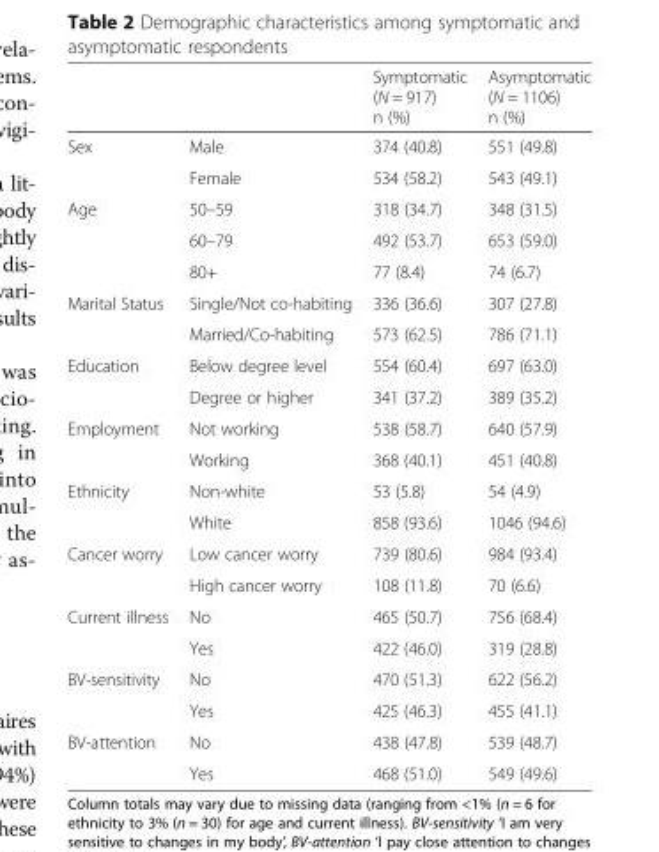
<table><thead><tr><td></td><td></td><td>Symptomatic (N = 917) n (%)</td><td>Asymptomatic (N = 1106) n (%)</td></tr></thead><tbody><tr><td rowspan="2">Sex</td><td>Male</td><td>374 (40.8)</td><td>551 (49.8)</td></tr><tr><td>Female</td><td>534 (58.2)</td><td>543 (49.1)</td></tr><tr><td rowspan="3">Age</td><td>50–59</td><td>318 (34.7)</td><td>348 (31.5)</td></tr><tr><td>60–79</td><td>492 (53.7)</td><td>653 (59.0)</td></tr><tr><td>80+</td><td>77 (8.4)</td><td>74 (6.7)</td></tr><tr><td rowspan="2">Marital Status</td><td>Single/Not co-habiting</td><td>336 (36.6)</td><td>307 (27.8)</td></tr><tr><td>Married/Co-habiting</td><td>573 (62.5)</td><td>786 (71.1)</td></tr><tr><td rowspan="2">Education</td><td>Below degree level</td><td>554 (60.4)</td><td>697 (63.0)</td></tr><tr><td>Degree or higher</td><td>341 (37.2)</td><td>389 (35.2)</td></tr><tr><td rowspan="2">Employment</td><td>Not working</td><td>538 (58.7)</td><td>640 (57.9)</td></tr><tr><td>Working</td><td>368 (40.1)</td><td>451 (40.8)</td></tr><tr><td rowspan="2">Ethnicity</td><td>Non-white</td><td>53 (5.8)</td><td>54 (4.9)</td></tr><tr><td>White</td><td>858 (93.6)</td><td>1046 (94.6)</td></tr><tr><td rowspan="2">Cancer worry</td><td>Low cancer worry</td><td>739 (80.6)</td><td>984 (93.4)</td></tr><tr><td>High cancer worry</td><td>108 (11.8)</td><td>70 (6.6)</td></tr><tr><td rowspan="2">Current illness</td><td>No</td><td>465 (50.7)</td><td>756 (68.4)</td></tr><tr><td>Yes</td><td>422 (46.0)</td><td>319 (28.8)</td></tr><tr><td rowspan="2">BV-sensitivity</td><td>No</td><td>470 (51.3)</td><td>622 (56.2)</td></tr><tr><td>Yes</td><td>425 (46.3)</td><td>455 (41.1)</td></tr><tr><td rowspan="2">BV-attention</td><td>No</td><td>438 (47.8)</td><td>539 (48.7)</td></tr><tr><td>Yes</td><td>468 (51.0)</td><td>549 (49.6)</td></tr></tbody></table>